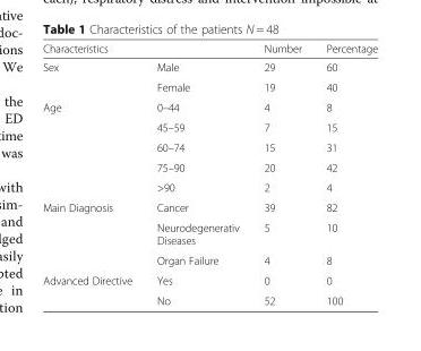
<table><thead><tr><td>Characteristics</td><td></td><td>Number</td><td>Percentage</td></tr></thead><tbody><tr><td rowspan="2">Sex</td><td>Male</td><td>29</td><td>60</td></tr><tr><td>Female</td><td>19</td><td>40</td></tr><tr><td rowspan="5">Age</td><td>0–44</td><td>4</td><td>8</td></tr><tr><td>45–59</td><td>7</td><td>15</td></tr><tr><td>60–74</td><td>15</td><td>31</td></tr><tr><td>75–90</td><td>20</td><td>42</td></tr><tr><td>&gt;90</td><td>2</td><td>4</td></tr><tr><td rowspan="3">Main Diagnosis</td><td>Cancer</td><td>39</td><td>82</td></tr><tr><td>Neurodegenerativ Diseases</td><td>5</td><td>10</td></tr><tr><td>Organ Failure</td><td>4</td><td>8</td></tr><tr><td rowspan="2">Advanced Directive</td><td>Yes</td><td>0</td><td>0</td></tr><tr><td>No</td><td>52</td><td>100</td></tr></tbody></table>